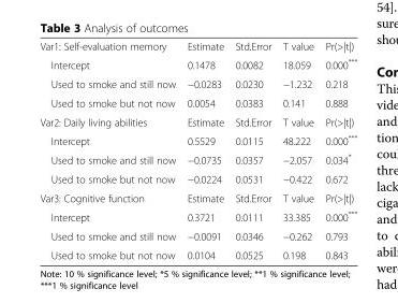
<table><tbody><tr><td>Var1: Self-evaluation memory</td><td>Estimate</td><td>Std.Error</td><td>T value</td><td>Pr(&gt;|t|)</td></tr><tr><td>Intercept</td><td>0.1478</td><td>0.0082</td><td>18.059</td><td>0.000***</td></tr><tr><td>Used to smoke and still now</td><td>−0.0283</td><td>0.0230</td><td>−1.232</td><td>0.218</td></tr><tr><td>Used to smoke but not now</td><td>0.0054</td><td>0.0383</td><td>0.141</td><td>0.888</td></tr><tr><td>Var2: Daily living abilities</td><td>Estimate</td><td>Std.Error</td><td>T value</td><td>Pr(&gt;|t|)</td></tr><tr><td>Intercept</td><td>0.5529</td><td>0.0115</td><td>48.222</td><td>0.000***</td></tr><tr><td>Used to smoke and still now</td><td>−0.0735</td><td>0.0357</td><td>−2.057</td><td>0.034*</td></tr><tr><td>Used to smoke but not now</td><td>−0.0224</td><td>0.0531</td><td>−0.422</td><td>0.672</td></tr><tr><td>Var3: Cognitive function</td><td>Estimate</td><td>Std.Error</td><td>T value</td><td>Pr(&gt;|t|)</td></tr><tr><td>Intercept</td><td>0.3721</td><td>0.0111</td><td>33.385</td><td>0.000***</td></tr><tr><td>Used to smoke and still now</td><td>−0.0091</td><td>0.0346</td><td>−0.262</td><td>0.793</td></tr><tr><td>Used to smoke but not now</td><td>0.0104</td><td>0.0525</td><td>0.198</td><td>0.843</td></tr></tbody></table>